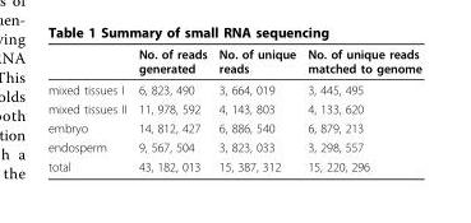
<table><thead><tr><td></td><td>No. of reads generated</td><td>No. of unique reads</td><td>No. of unique reads matched to genome</td></tr></thead><tbody><tr><td>mixed tissues I</td><td>6, 823, 490</td><td>3, 664, 019</td><td>3, 445, 495</td></tr><tr><td>mixed tissues II</td><td>11, 978, 592</td><td>4, 143, 803</td><td>4, 133, 620</td></tr><tr><td>embryo</td><td>14, 812, 427</td><td>6, 886, 540</td><td>6, 879, 213</td></tr><tr><td>endosperm</td><td>9, 567, 504</td><td>3, 823, 033</td><td>3, 298, 557</td></tr><tr><td>total</td><td>43, 182, 013</td><td>15, 387, 312</td><td>15, 220, 296</td></tr></tbody></table>